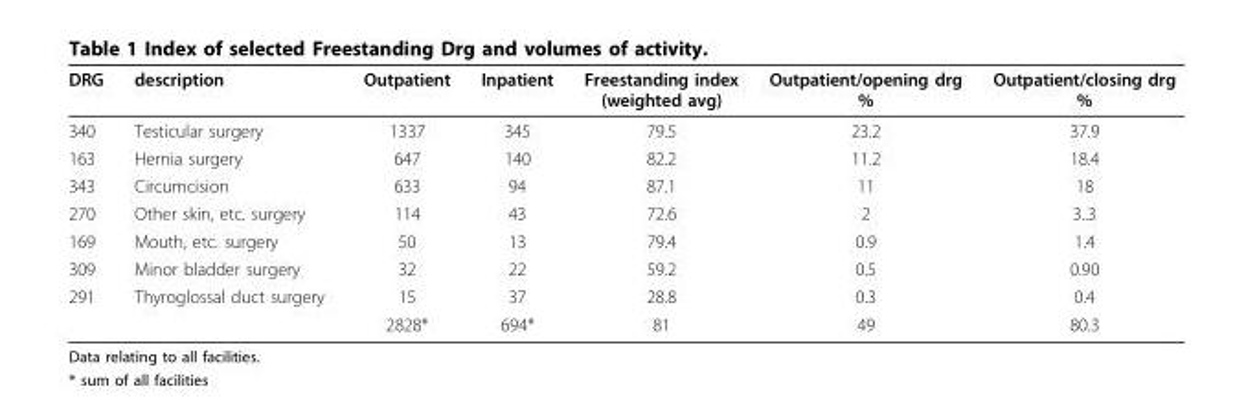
<table><thead><tr><td>DRG</td><td>description</td><td>Outpatient</td><td>Inpatient</td><td>Freestanding index (weighted avg)</td><td>Outpatient/opening drg %</td><td>Outpatient/closing drg %</td></tr></thead><tbody><tr><td>340</td><td>Testicular surgery</td><td>1337</td><td>345</td><td>79.5</td><td>23.2</td><td>37.9</td></tr><tr><td>163</td><td>Hernia surgery</td><td>647</td><td>140</td><td>82.2</td><td>11.2</td><td>18.4</td></tr><tr><td>343</td><td>Circumcision</td><td>633</td><td>94</td><td>87.1</td><td>11</td><td>18</td></tr><tr><td>270</td><td>Other skin, etc. surgery</td><td>114</td><td>43</td><td>72.6</td><td>2</td><td>3..3</td></tr><tr><td>169</td><td>Mouth, etc. surgery</td><td>50</td><td>13</td><td>79.4</td><td>0.9</td><td>1.4</td></tr><tr><td>309</td><td>Minor bladder surgery</td><td>32</td><td>22</td><td>59.2</td><td>0.5</td><td>0.90</td></tr><tr><td rowspan="2">291</td><td>Thyroglossal duct surgery</td><td>15</td><td>37</td><td>28.8</td><td>0.3</td><td>0.4</td></tr><tr><td></td><td>2828*</td><td>694*</td><td>81</td><td>49</td><td>80.3</td></tr></tbody></table>